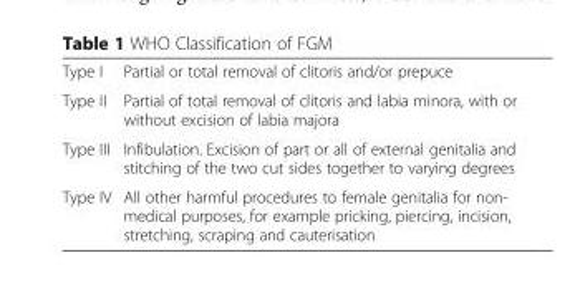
<table><tbody><tr><td>Type I</td><td>Partial or total removal of clitoris and/or prepuce</td></tr><tr><td>Type II</td><td>Partial of total removal of clitoris and labia minora, with or without excision of labia majora</td></tr><tr><td>Type III</td><td>Infibulation. Excision of part or all of external genitalia and stitching of the two cut sides together to varying degrees</td></tr><tr><td>Type IV</td><td>All other harmful procedures to female genitalia for non- medical purposes, for example pricking, piercing, incision, stretching, scraping and cauterisation</td></tr></tbody></table>